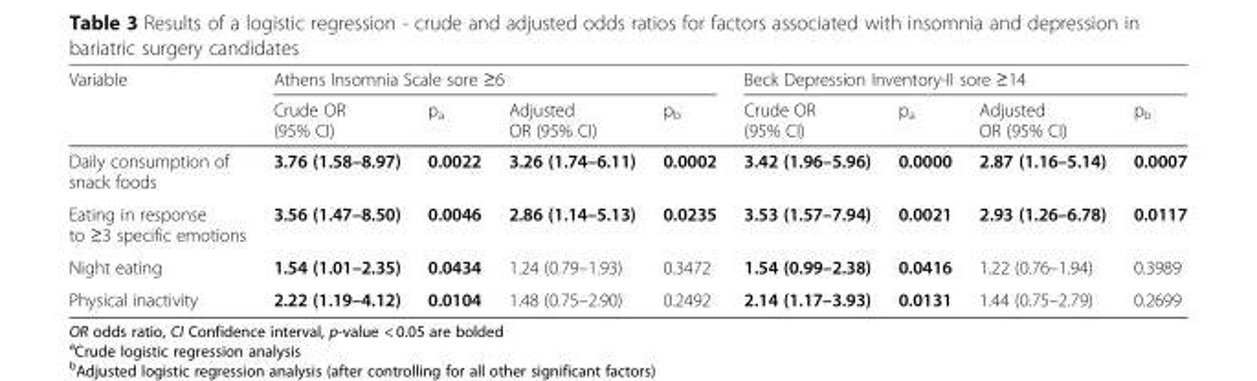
<table><thead><tr><td rowspan="2">Variable</td><td colspan="4">Athens Insomnia Scale sore ≥6</td><td colspan="4">Beck Depression Inventory-II sore ≥14</td></tr><tr><td>Crude OR (95% CI)</td><td>p<sub>a</sub></td><td>Adjusted OR (95% CI)</td><td>p<sub>b</sub></td><td>Crude OR (95% CI)</td><td>p<sub>a</sub></td><td>Adjusted OR (95% CI)</td><td>p<sub>b</sub></td></tr></thead><tbody><tr><td>Daily consumption of snack foods</td><td>3.76 (1.58–8.97)</td><td>0.0022</td><td>3.26 (1.74–6.11)</td><td>0.0002</td><td>3.42 (1.96–5.96)</td><td>0.0000</td><td>2.87 (1.16–5.14)</td><td>0.0007</td></tr><tr><td>Eating in response to ≥3 specific emotions</td><td>3.56 (1.47–8.50)</td><td>0.0046</td><td>2.86 (1.14–5.13)</td><td>0.0235</td><td>3.53 (1.57–7.94)</td><td>0.0021</td><td>2.93 (1.26–6.78)</td><td>0.0117</td></tr><tr><td>Night eating</td><td>1.54 (1.01–2.35)</td><td>0.0434</td><td>1.24 (0.79–1.93)</td><td>0.3472</td><td>1.54 (0.99–2.38)</td><td>0.0416</td><td>1.22 (0.76–1.94)</td><td>0.3989</td></tr><tr><td>Physical inactivity</td><td>2.22 (1.19–4.12)</td><td>0.0104</td><td>1.48 (0.75–2.90)</td><td>0.2492</td><td>2.14 (1.17–3.93)</td><td>0.0131</td><td>1.44 (0.75–2.79)</td><td>0.2699</td></tr></tbody></table>